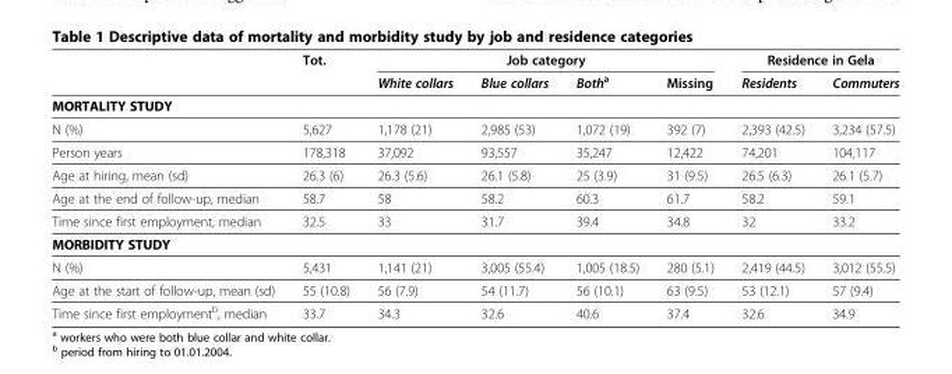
<table><thead><tr><td rowspan="2"></td><td rowspan="2">Tot.</td><td colspan="4">Job category</td><td colspan="2">Residence in Gela</td></tr><tr><td>White collars</td><td>Blue collars</td><td>Both<sup>a</sup></td><td>Missing</td><td>Residents</td><td>Commuters</td></tr></thead><tbody><tr><td colspan="8">MORTALITY STUDY</td></tr><tr><td>N (%)</td><td>5,627</td><td>1,178 (21)</td><td>2,985 (53)</td><td>1,072 (19)</td><td>392 (7)</td><td>2,393 (42.5)</td><td>3,234 (57.5)</td></tr><tr><td>Person years</td><td>178,318</td><td>37,092</td><td>93,557</td><td>35,247</td><td>12,422</td><td>74,201</td><td>104,117</td></tr><tr><td>Age at hiring, mean (sd)</td><td>26.3 (6)</td><td>26.3 (5.6)</td><td>26.1 (5.8)</td><td>25 (3.9)</td><td>31 (9.5)</td><td>26.5 (6.3)</td><td>26.1 (5.7)</td></tr><tr><td>Age at the end of follow-up, median</td><td>58.7</td><td>58</td><td>58.2</td><td>60.3</td><td>61.7</td><td>58.2</td><td>59.1</td></tr><tr><td>Time since first employment, median</td><td>32.5</td><td>33</td><td>31.7</td><td>39.4</td><td>34.8</td><td>32</td><td>33.2</td></tr><tr><td colspan="8">MORBIDITY STUDY</td></tr><tr><td>N (%)</td><td>5,431</td><td>1,141 (21)</td><td>3,005 (55.4)</td><td>1,005 (18.5)</td><td>280 (5.1)</td><td>2,419 (44.5)</td><td>3,012 (55.5)</td></tr><tr><td>Age at the start of follow-up, mean (sd)</td><td>55 (10.8)</td><td>56 (7.9)</td><td>54 (11.7)</td><td>56 (10.1)</td><td>63 (9.5)</td><td>53 (12.1)</td><td>57 (9.4)</td></tr><tr><td>Time since first employment<sup>b</sup>, median</td><td>33.7</td><td>34.3</td><td>32.6</td><td>40.6</td><td>37.4</td><td>32.6</td><td>34.9</td></tr></tbody></table>